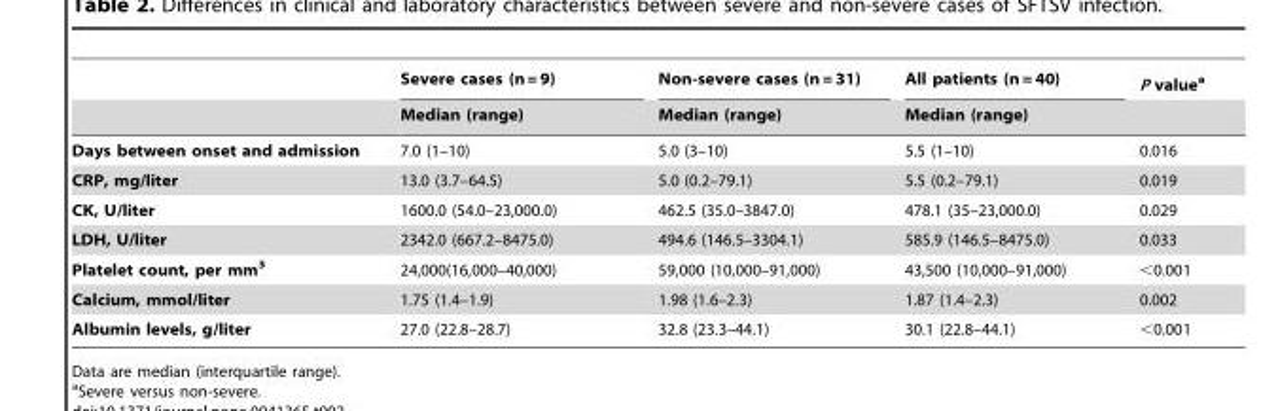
<table><thead><tr><td rowspan="2"></td><td rowspan="2">Severe cases (n = 9) Median (range)</td><td rowspan="2">Non-severe cases (n = 31) Median (range)</td><td rowspan="2">All patients (n = 40) Median (range)</td><td rowspan="2">P value<sup>a</sup></td></tr><tr></tr></thead><tbody><tr><td>Days between onset and admission</td><td>7.0 (1–10)</td><td>5.0 (3–10)</td><td>5.5 (1–10)</td><td>0.016</td></tr><tr><td>CRP, mg/liter</td><td>13.0 (3.7–64.5)</td><td>5.0 (0.2–79.1)</td><td>5.5 (0.2–79.1)</td><td>0.019</td></tr><tr><td>CK, U/liter</td><td>1600.0 (54.0–23,000.0)</td><td>462.5 (35.0–3847.0)</td><td>478.1 (35–23,000.0)</td><td>0.029</td></tr><tr><td>LDH, U/liter</td><td>2342.0 (667.2–8475.0)</td><td>494.6 (146.5–3304.1)</td><td>585.9 (146.5–8475.0)</td><td>0.033</td></tr><tr><td>Platelet count, per mm<sup>3</sup></td><td>24,000(16,000–40,000)</td><td>59,000 (10,000–91,000)</td><td>43,500 (10,000–91,000)</td><td>&lt;0.001</td></tr><tr><td>Calcium, mmol/liter</td><td>1.75 (1.4–1.9)</td><td>1.98 (1.6–2.3)</td><td>1.87 (1.4–2.3)</td><td>0.002</td></tr><tr><td>Albumin levels, g/liter</td><td>27.0 (22.8–28.7)</td><td>32.8 (23.3–44.1)</td><td>30.1 (22.8–44.1)</td><td>&lt;0.001</td></tr></tbody></table>